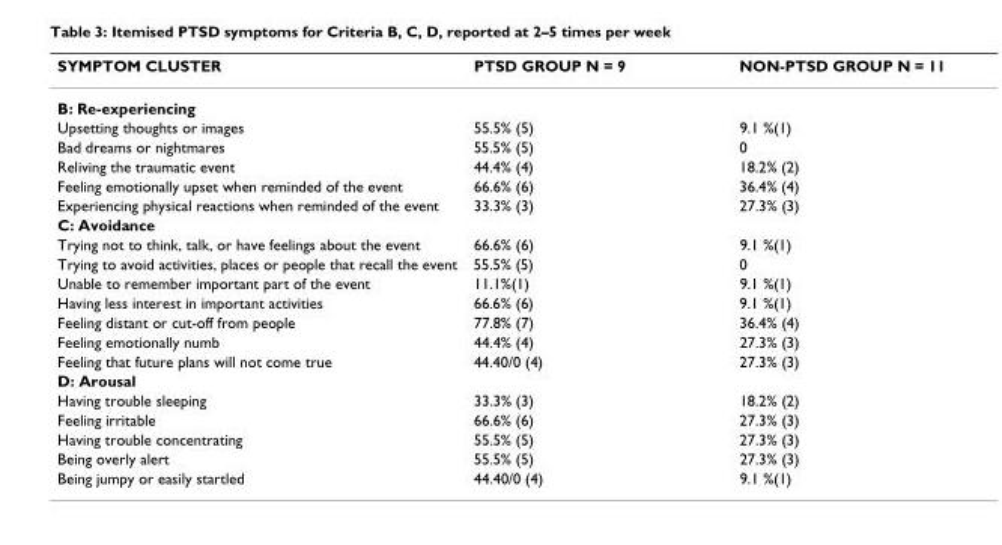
<table><thead><tr><td>SYMPTOM CLUSTER</td><td>PTSD GROUP N = 9</td><td>NON-PTSD GROUP N = 11</td></tr></thead><tbody><tr><td colspan="3">B: Re-experiencing</td></tr><tr><td>Upsetting thoughts or images</td><td>55.5% (5)</td><td>9.1 %(1)</td></tr><tr><td>Bad dreams or nightmares</td><td>55.5% (5)</td><td>0</td></tr><tr><td>Reliving the traumatic event</td><td>44.4% (4)</td><td>18.2% (2)</td></tr><tr><td>Feeling emotionally upset when reminded of the event</td><td>66.6% (6)</td><td>36.4% (4)</td></tr><tr><td>Experiencing physical reactions when reminded of the event</td><td>33.3% (3)</td><td>27.3% (3)</td></tr><tr><td colspan="3">C: Avoidance</td></tr><tr><td>Trying not to think, talk, or have feelings about the event</td><td>66.6% (6)</td><td>9.1 %(1)</td></tr><tr><td>Trying to avoid activities, places or people that recall the event</td><td>55.5% (5)</td><td>0</td></tr><tr><td>Unable to remember important part of the event</td><td>11.1%(1)</td><td>9.1 %(1)</td></tr><tr><td>Having less interest in important activities</td><td>66.6% (6)</td><td>9.1 %(1)</td></tr><tr><td>Feeling distant or cut-off from people</td><td>77.8% (7)</td><td>36.4% (4)</td></tr><tr><td>Feeling emotionally numb</td><td>44.4% (4)</td><td>27.3% (3)</td></tr><tr><td>Feeling that future plans will not come true</td><td>44.40/0 (4)</td><td>27.3% (3)</td></tr><tr><td colspan="3">D: Arousal</td></tr><tr><td>Having trouble sleeping</td><td>33.3% (3)</td><td>18.2% (2)</td></tr><tr><td>Feeling irritable</td><td>66.6% (6)</td><td>27.3% (3)</td></tr><tr><td>Having trouble concentrating</td><td>55.5% (5)</td><td>27.3% (3)</td></tr><tr><td>Being overly alert</td><td>55.5% (5)</td><td>27.3% (3)</td></tr><tr><td>Being jumpy or easily startled</td><td>44.40/0 (4)</td><td>9.1 %(1)</td></tr></tbody></table>